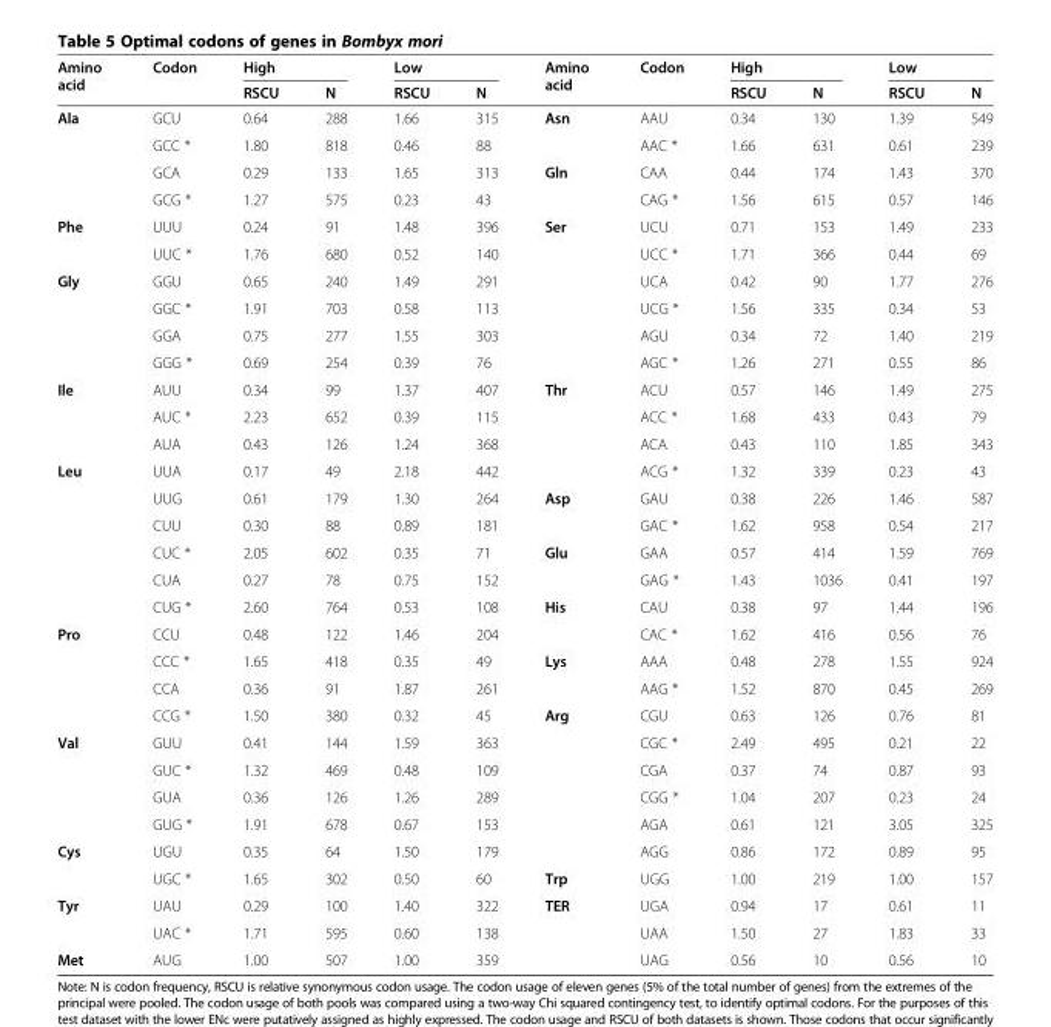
<table><thead><tr><td rowspan="2">Amino acid</td><td rowspan="2">Codon</td><td colspan="2">High</td><td colspan="2">Low</td><td rowspan="2">Amino acid</td><td rowspan="2">Codon</td><td colspan="2">High</td><td colspan="2">Low</td></tr><tr><td>RSCU</td><td>N</td><td>RSCU</td><td>N</td><td>RSCU</td><td>N</td><td>RSCU</td><td>N</td></tr></thead><tbody><tr><td rowspan="4">Ala</td><td>GCU</td><td>0.64</td><td>288</td><td>1.66</td><td>315</td><td rowspan="2">Asn</td><td>AAU</td><td>0.34</td><td>130</td><td>1.39</td><td>549</td></tr><tr><td>GCC *</td><td>1.80</td><td>818</td><td>0.46</td><td>88</td><td>AAC *</td><td>1.66</td><td>631</td><td>0.61</td><td>239</td></tr><tr><td>GCA</td><td>0.29</td><td>133</td><td>1.65</td><td>313</td><td rowspan="2">Gln</td><td>CAA</td><td>0.44</td><td>174</td><td>1.43</td><td>370</td></tr><tr><td>GCG *</td><td>1.27</td><td>575</td><td>0.23</td><td>43</td><td>CAG *</td><td>1.56</td><td>615</td><td>0.57</td><td>146</td></tr><tr><td rowspan="2">Phe</td><td>UUU</td><td>0.24</td><td>91</td><td>1.48</td><td>396</td><td rowspan="6">Ser</td><td>UCU</td><td>0.71</td><td>153</td><td>1.49</td><td>233</td></tr><tr><td>UUC *</td><td>1.76</td><td>680</td><td>0.52</td><td>140</td><td>UCC *</td><td>1.71</td><td>366</td><td>0.44</td><td>69</td></tr><tr><td rowspan="4">Gly</td><td>GGU</td><td>0.65</td><td>240</td><td>1.49</td><td>291</td><td>UCA</td><td>0.42</td><td>90</td><td>1.77</td><td>276</td></tr><tr><td>GGC *</td><td>1.91</td><td>703</td><td>0.58</td><td>113</td><td>UCG *</td><td>1.56</td><td>335</td><td>0.34</td><td>53</td></tr><tr><td>GGA</td><td>0.75</td><td>277</td><td>1.55</td><td>303</td><td>AGU</td><td>0.34</td><td>72</td><td>1.40</td><td>219</td></tr><tr><td>GGG *</td><td>0.69</td><td>254</td><td>0.39</td><td>76</td><td>AGC *</td><td>1.26</td><td>271</td><td>0.55</td><td>86</td></tr><tr><td rowspan="3">Ile</td><td>AUU</td><td>0.34</td><td>99</td><td>1.37</td><td>407</td><td rowspan="4">Thr</td><td>ACU</td><td>0.57</td><td>146</td><td>1.49</td><td>275</td></tr><tr><td>AUC *</td><td>2.23</td><td>652</td><td>0.39</td><td>115</td><td>ACC *</td><td>1.68</td><td>433</td><td>0.43</td><td>79</td></tr><tr><td>AUA</td><td>0.43</td><td>126</td><td>1.24</td><td>368</td><td>ACA</td><td>0.43</td><td>110</td><td>1.85</td><td>343</td></tr><tr><td rowspan="6">Leu</td><td>UUA</td><td>0.17</td><td>49</td><td>2.18</td><td>442</td><td>ACG *</td><td>1.32</td><td>339</td><td>0.23</td><td>43</td></tr><tr><td>UUG</td><td>0.61</td><td>179</td><td>1.30</td><td>264</td><td rowspan="2">Asp</td><td>GAU</td><td>0.38</td><td>226</td><td>1.46</td><td>587</td></tr><tr><td>CUU</td><td>0.30</td><td>88</td><td>0.89</td><td>181</td><td>GAC *</td><td>1.62</td><td>958</td><td>0.54</td><td>217</td></tr><tr><td>CUC *</td><td>2.05</td><td>602</td><td>0.35</td><td>71</td><td rowspan="2">Glu</td><td>GAA</td><td>0.57</td><td>414</td><td>1.59</td><td>769</td></tr><tr><td>CUA</td><td>0.27</td><td>78</td><td>0.75</td><td>152</td><td>GAG *</td><td>1.43</td><td>1036</td><td>0.41</td><td>197</td></tr><tr><td>CUG *</td><td>2.60</td><td>764</td><td>0.53</td><td>108</td><td rowspan="2">His</td><td>CAU</td><td>0.38</td><td>97</td><td>1.44</td><td>196</td></tr><tr><td rowspan="4">Pro</td><td>CCU</td><td>0.48</td><td>122</td><td>1.46</td><td>204</td><td>CAC *</td><td>1.62</td><td>416</td><td>0.56</td><td>76</td></tr><tr><td>CCC *</td><td>1.65</td><td>418</td><td>0.35</td><td>49</td><td rowspan="2">Lys</td><td>AAA</td><td>0.48</td><td>278</td><td>1.55</td><td>924</td></tr><tr><td>CCA</td><td>0.36</td><td>91</td><td>1.87</td><td>261</td><td>AAG *</td><td>1.52</td><td>870</td><td>0.45</td><td>269</td></tr><tr><td>CCG *</td><td>1.50</td><td>380</td><td>0.32</td><td>45</td><td rowspan="6">Arg</td><td>CGU</td><td>0.63</td><td>126</td><td>0.76</td><td>81</td></tr><tr><td rowspan="4">Val</td><td>GUU</td><td>0.41</td><td>144</td><td>1.59</td><td>363</td><td>CGC *</td><td>2.49</td><td>495</td><td>0.21</td><td>22</td></tr><tr><td>GUC *</td><td>1.32</td><td>469</td><td>0.48</td><td>109</td><td>CGA</td><td>0.37</td><td>74</td><td>0.87</td><td>93</td></tr><tr><td>GUA</td><td>0.36</td><td>126</td><td>1.26</td><td>289</td><td>CGG *</td><td>1.04</td><td>207</td><td>0.23</td><td>24</td></tr><tr><td>GUG *</td><td>1.91</td><td>678</td><td>0.67</td><td>153</td><td>AGA</td><td>0.61</td><td>121</td><td>3.05</td><td>325</td></tr><tr><td rowspan="2">Cys</td><td>UGU</td><td>0.35</td><td>64</td><td>1.50</td><td>179</td><td>AGG</td><td>0.86</td><td>172</td><td>0.89</td><td>95</td></tr><tr><td>UGC *</td><td>1.65</td><td>302</td><td>0.50</td><td>60</td><td>Trp</td><td>UGG</td><td>1.00</td><td>219</td><td>1.00</td><td>157</td></tr><tr><td rowspan="2">Tyr</td><td>UAU</td><td>0.29</td><td>100</td><td>1.40</td><td>322</td><td rowspan="3">TER</td><td>UGA</td><td>0.94</td><td>17</td><td>0.61</td><td>11</td></tr><tr><td>UAC *</td><td>1.71</td><td>595</td><td>0.60</td><td>138</td><td>UAA</td><td>1.50</td><td>27</td><td>1.83</td><td>33</td></tr><tr><td>Met</td><td>AUG</td><td>1.00</td><td>507</td><td>1.00</td><td>359</td><td>UAG</td><td>0.56</td><td>10</td><td>0.56</td><td>10</td></tr></tbody></table>